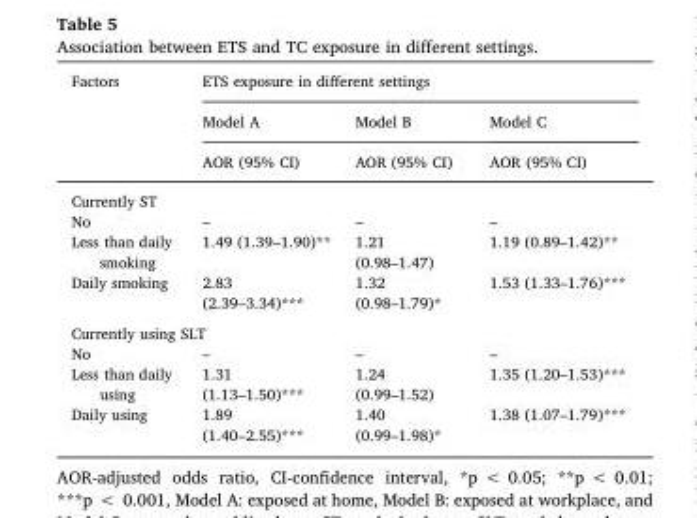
<table><thead><tr><td rowspan="3">Factors</td><td colspan="3">ETS exposure in different settings</td></tr><tr><td rowspan="2">Model A AOR (95% CI)</td><td rowspan="2">Model B AOR (95% CI)</td><td rowspan="2">Model C AOR (95% CI)</td></tr><tr></tr></thead><tbody><tr><td colspan="4">Currently ST</td></tr><tr><td>No</td><td>–</td><td>–</td><td>–</td></tr><tr><td>Less than daily smoking</td><td>1.49 (1.39–1.90)**</td><td>1.21 (0.98–1.47)</td><td>1.19 (0.89–1.42)**</td></tr><tr><td>Daily smoking</td><td>2.83 (2.39–3.34)***</td><td>1.32 (0.98–1.79)*</td><td>1.53 (1.33–1.76)***</td></tr><tr><td colspan="4">Currently using SLT</td></tr><tr><td>No</td><td>–</td><td>–</td><td>–</td></tr><tr><td>Less than daily using</td><td>1.31 (1.13–1.50)***</td><td>1.24 (0.99–1.52)</td><td>1.35 (1.20–1.53)***</td></tr><tr><td>Daily using</td><td>1.89 (1.40–2.55)***</td><td>1.40 (0.99–1.98)*</td><td>1.38 (1.07–1.79)***</td></tr></tbody></table>